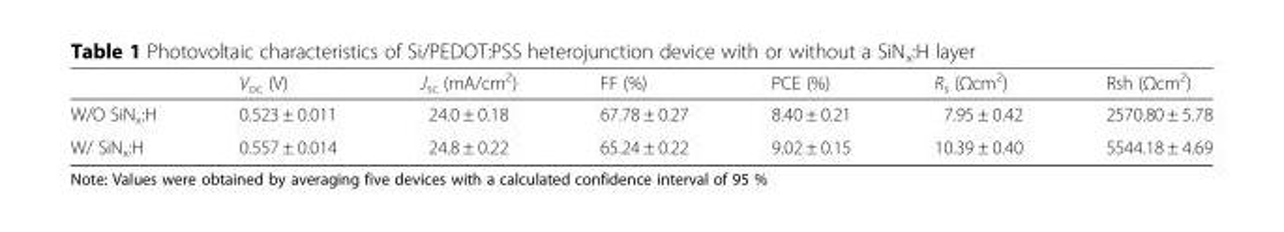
<table><thead><tr><td></td><td>V<sub>oc</sub> (V)</td><td>J<sub>sc</sub> (mA/cm<sup>2</sup>)</td><td>FF (%)</td><td>PCE (%)</td><td>R<sub>s</sub> (Ωcm<sup>2</sup>)</td><td>Rsh (Ωcm<sup>2</sup>)</td></tr></thead><tbody><tr><td>W/O SiN<sub>x</sub>:H</td><td>0.523 ± 0.011</td><td>24.0 ± 0.18</td><td>67.78 ± 0.27</td><td>8.40 ± 0.21</td><td>7.95 ± 0.42</td><td>2570.80 ± 5.78</td></tr><tr><td>W/ SiN<sub>x</sub>:H</td><td>0.557 ± 0.014</td><td>24.8 ± 0.22</td><td>65.24 ± 0.22</td><td>9.02 ± 0.15</td><td>10.39 ± 0.40</td><td>5544.18 ± 4.69</td></tr></tbody></table>